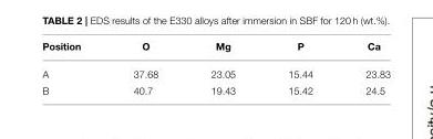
<table><thead><tr><td>Position</td><td>O</td><td>Mg</td><td>P</td><td>Ca</td></tr></thead><tbody><tr><td>A</td><td>37.68</td><td>23.05</td><td>15.44</td><td>23.83</td></tr><tr><td>B</td><td>40.7</td><td>19.43</td><td>15.42</td><td>24.5</td></tr></tbody></table>